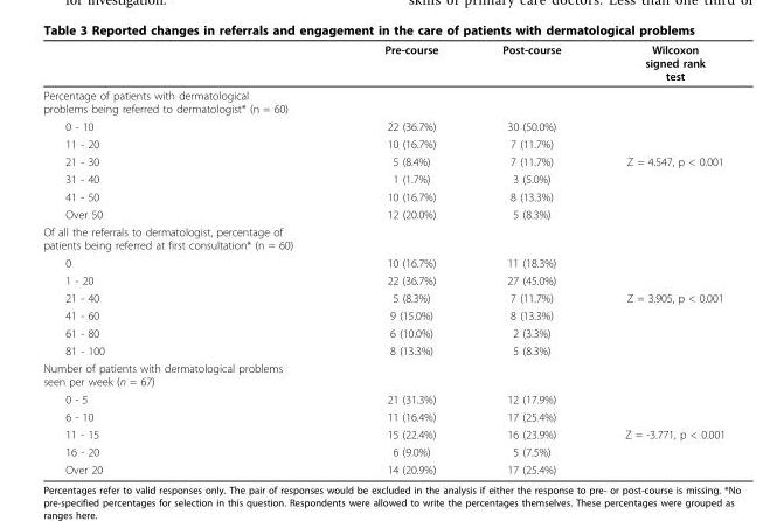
<table><thead><tr><td></td><td>Pre-course</td><td>Post-course</td><td>Wilcoxon signed rank test</td></tr></thead><tbody><tr><td colspan="4">Percentage of patients with dermatological problems being referred to dermatologist* (n = 60)</td></tr><tr><td>0 - 10</td><td>22 (36.7%)</td><td>30 (50.0%)</td><td></td></tr><tr><td>11 - 20</td><td>10 (16.7%)</td><td>7 (11.7%)</td><td></td></tr><tr><td>21 - 30</td><td>5 (8.4%)</td><td>7 (11.7%)</td><td>Z = 4.547, p &lt; 0.001</td></tr><tr><td>31 - 40</td><td>1 (1.7%)</td><td>3 (5.0%)</td><td></td></tr><tr><td>41 - 50</td><td>10 (16.7%)</td><td>8 (13.3%)</td><td></td></tr><tr><td>Over 50</td><td>12 (20.0%)</td><td>5 (8.3%)</td><td></td></tr><tr><td colspan="4">Of all the referrals to dermatologist, percentage of patients being referred at first consultation* (n = 60)</td></tr><tr><td>0</td><td>10 (16.7%)</td><td>11 (18.3%)</td><td></td></tr><tr><td>1 - 20</td><td>22 (36.7%)</td><td>27 (45.0%)</td><td></td></tr><tr><td>21 - 40</td><td>5 (8.3%)</td><td>7 (11.7%)</td><td>Z = 3.905, p &lt; 0.001</td></tr><tr><td>41 - 60</td><td>9 (15.0%)</td><td>8 (13.3%)</td><td></td></tr><tr><td>61 - 80</td><td>6 (10.0%)</td><td>2 (3.3%)</td><td></td></tr><tr><td>81 - 100</td><td>8 (13.3%)</td><td>5 (8.3%)</td><td></td></tr><tr><td colspan="4">Number of patients with dermatological problems seen per week (n = 67)</td></tr><tr><td>0 - 5</td><td>21 (31.3%)</td><td>12 (17.9%)</td><td></td></tr><tr><td>6 - 10</td><td>11 (16.4%)</td><td>17 (25.4%)</td><td></td></tr><tr><td>11 - 15</td><td>15 (22.4%)</td><td>16 (23.9%)</td><td>Z = -3.771, p &lt; 0.001</td></tr><tr><td>16 - 20</td><td>6 (9.0%)</td><td>5 (7.5%)</td><td></td></tr><tr><td>Over 20</td><td>14 (20.9%)</td><td>17 (25.4%)</td><td></td></tr></tbody></table>